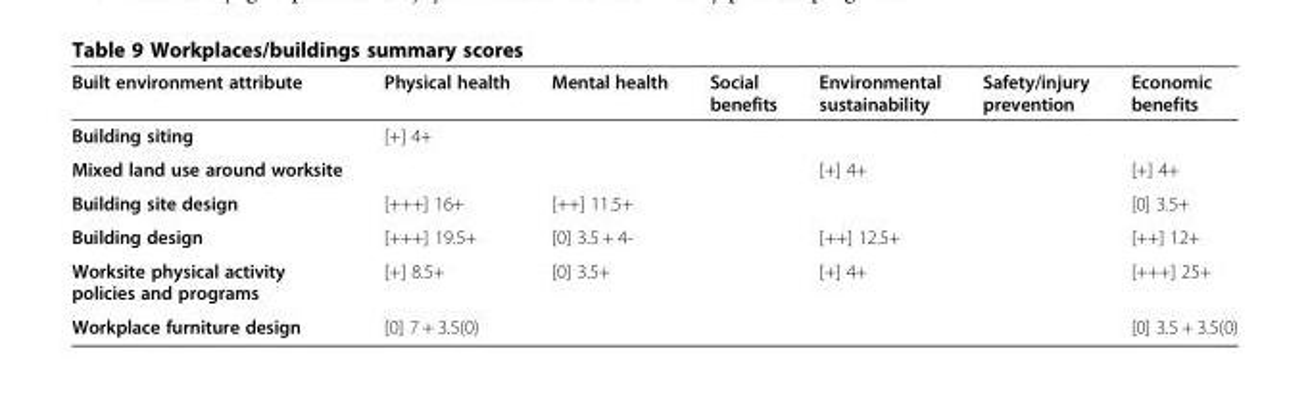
<table><thead><tr><td>Built environment attribute</td><td>Physical health</td><td>Mental health</td><td>Social benefits</td><td>Environmental sustainability</td><td>Safety/injury prevention</td><td>Economic benefits</td></tr></thead><tbody><tr><td>Building siting</td><td>[+] 4+</td><td></td><td></td><td></td><td></td><td></td></tr><tr><td>Mixed land use around worksite</td><td></td><td></td><td></td><td>[+] 4+</td><td></td><td>[+] 4+</td></tr><tr><td>Building site design</td><td>[+++] 16+</td><td>[++] 11.5+</td><td></td><td></td><td></td><td>[0] 3.5+</td></tr><tr><td>Building design</td><td>[+++] 19.5+</td><td>[0] 3.5 + 4-</td><td></td><td>[++] 12.5+</td><td></td><td>[++] 12+</td></tr><tr><td>Worksite physical activity policies and programs</td><td>[+] 8.5+</td><td>[0] 3.5+</td><td></td><td>[+] 4+</td><td></td><td>[+++] 25+</td></tr><tr><td>Workplace furniture design</td><td>[0] 7 + 3.5(0)</td><td></td><td></td><td></td><td></td><td>[0] 3.5 + 3.5(0)</td></tr></tbody></table>